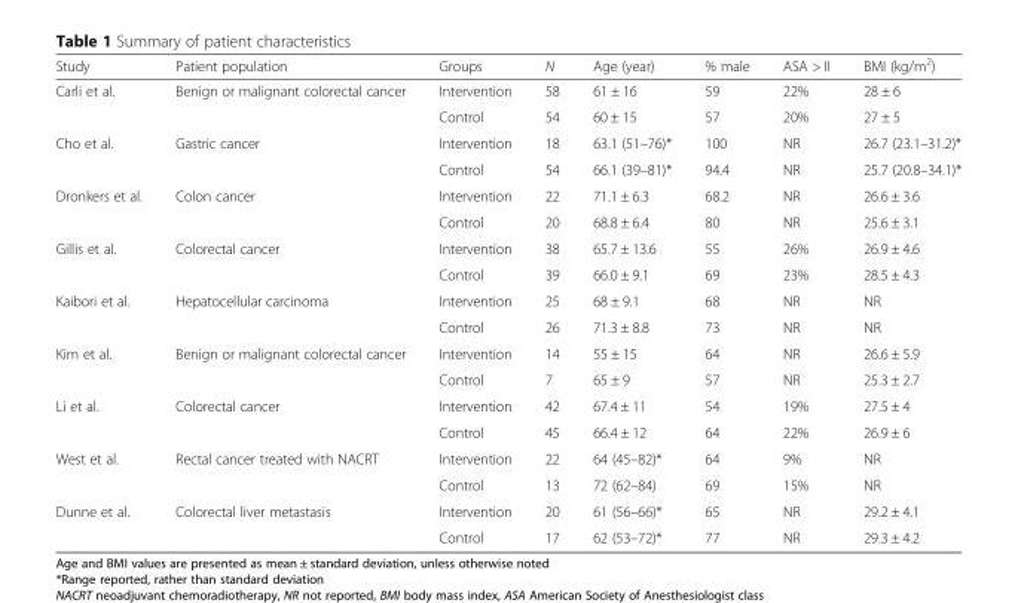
<table><thead><tr><td>Study</td><td>Patient population</td><td>Groups</td><td>N</td><td>Age (year)</td><td>% male</td><td>ASA &gt; II</td><td>BMI (kg/m<sup>2</sup>)</td></tr></thead><tbody><tr><td rowspan="2">Carli et al.</td><td rowspan="2">Benign or malignant colorectal cancer</td><td>Intervention</td><td>58</td><td>61 ± 16</td><td>59</td><td>22%</td><td>28 ± 6</td></tr><tr><td>Control</td><td>54</td><td>60 ± 15</td><td>57</td><td>20%</td><td>27 ± 5</td></tr><tr><td rowspan="2">Cho et al.</td><td rowspan="2">Gastric cancer</td><td>Intervention</td><td>18</td><td>63.1 (51–76)*</td><td>100</td><td>NR</td><td>26.7 (23.1–31.2)*</td></tr><tr><td>Control</td><td>54</td><td>66.1 (39–81)*</td><td>94.4</td><td>NR</td><td>25.7 (20.8–34.1)*</td></tr><tr><td rowspan="2">Dronkers et al.</td><td rowspan="2">Colon cancer</td><td>Intervention</td><td>22</td><td>71.1 ± 6.3</td><td>68.2</td><td>NR</td><td>26.6 ± 3.6</td></tr><tr><td>Control</td><td>20</td><td>68.8 ± 6.4</td><td>80</td><td>NR</td><td>25.6 ± 3.1</td></tr><tr><td rowspan="2">Gillis et al.</td><td rowspan="2">Colorectal cancer</td><td>Intervention</td><td>38</td><td>65.7 ± 13.6</td><td>55</td><td>26%</td><td>26.9 ± 4.6</td></tr><tr><td>Control</td><td>39</td><td>66.0 ± 9.1</td><td>69</td><td>23%</td><td>28.5 ± 4.3</td></tr><tr><td rowspan="2">Kaibori et al.</td><td rowspan="2">Hepatocellular carcinoma</td><td>Intervention</td><td>25</td><td>68 ± 9.1</td><td>68</td><td>NR</td><td>NR</td></tr><tr><td>Control</td><td>26</td><td>71.3 ± 8.8</td><td>73</td><td>NR</td><td>NR</td></tr><tr><td rowspan="2">Kim et al.</td><td rowspan="2">Benign or malignant colorectal cancer</td><td>Intervention</td><td>14</td><td>55 ± 15</td><td>64</td><td>NR</td><td>26.6 ± 5.9</td></tr><tr><td>Control</td><td>7</td><td>65 ± 9</td><td>57</td><td>NR</td><td>25.3 ± 2.7</td></tr><tr><td rowspan="2">Li et al.</td><td rowspan="2">Colorectal cancer</td><td>Intervention</td><td>42</td><td>67.4 ± 11</td><td>54</td><td>19%</td><td>27.5 ± 4</td></tr><tr><td>Control</td><td>45</td><td>66.4 ± 12</td><td>64</td><td>22%</td><td>26.9 ± 6</td></tr><tr><td rowspan="2">West et al.</td><td rowspan="2">Rectal cancer treated with NACRT</td><td>Intervention</td><td>22</td><td>64 (45–82)*</td><td>64</td><td>9%</td><td>NR</td></tr><tr><td>Control</td><td>13</td><td>72 (62–84)</td><td>69</td><td>15%</td><td>NR</td></tr><tr><td rowspan="2">Dunne et al.</td><td rowspan="2">Colorectal liver metastasis</td><td>Intervention</td><td>20</td><td>61 (56–66)*</td><td>65</td><td>NR</td><td>29.2 ± 4.1</td></tr><tr><td>Control</td><td>17</td><td>62 (53–72)*</td><td>77</td><td>NR</td><td>29.3 ± 4.2</td></tr></tbody></table>